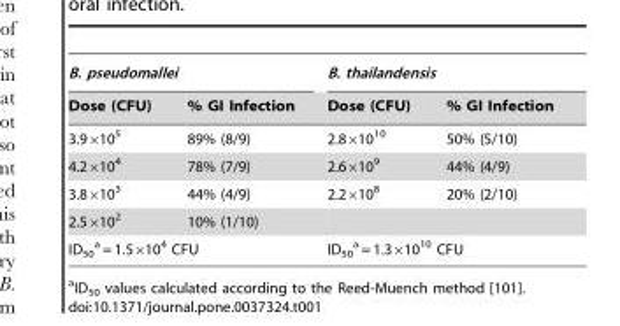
<table><thead><tr><td colspan="2">B. pseudomallei</td><td colspan="2">B. thailandensis</td></tr><tr><td>Dose (CFU)</td><td>% GI Infection</td><td>Dose (CFU)</td><td>% GI Infection</td></tr></thead><tbody><tr><td>3.9×10<sup>5</sup></td><td>89% (8/9)</td><td>2.8×10<sup>10</sup></td><td>50% (5/10)</td></tr><tr><td>4.2×10<sup>4</sup></td><td>78% (7/9)</td><td>2.6×10<sup>9</sup></td><td>44% (4/9)</td></tr><tr><td>3.8×10<sup>3</sup></td><td>44% (4/9)</td><td>2.2×10<sup>8</sup></td><td>20% (2/10)</td></tr><tr><td>2.5×10<sup>2</sup></td><td>10% (1/10)</td><td></td><td></td></tr><tr><td colspan="2">ID<sub>50</sub> a = 1.5×10<sup>4</sup> CFU</td><td colspan="2">ID<sub>50</sub> a = 1.3×10<sup>10</sup> CFU</td></tr></tbody></table>